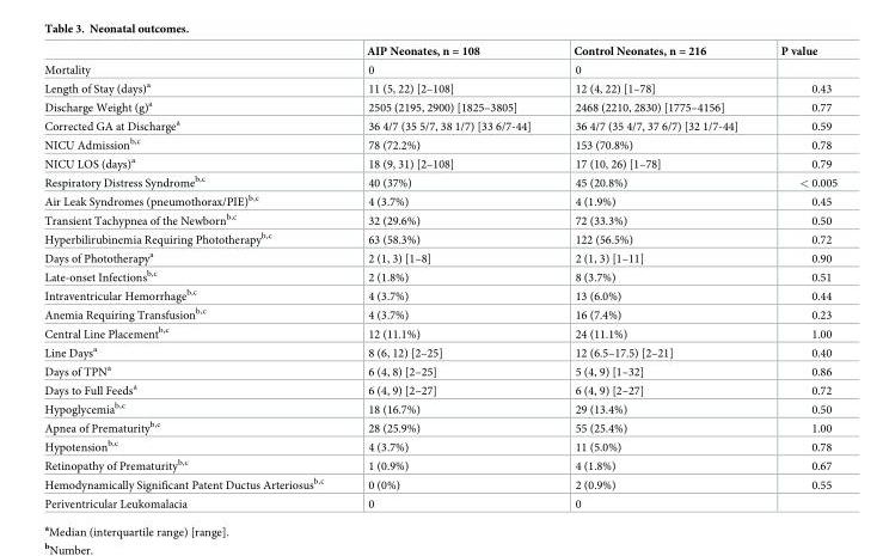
<table><thead><tr><td></td><td>AIP Neonates, n = 108</td><td>Control Neonates, n = 216</td><td>P value</td></tr></thead><tbody><tr><td>Mortality</td><td>0</td><td>0</td><td></td></tr><tr><td>Length of Stay (days)<sup>a</sup></td><td>11 (5, 22) [2–108]</td><td>12 (4, 22) [1–78]</td><td>0.43</td></tr><tr><td>Discharge Weight (g)<sup>a</sup></td><td>2505 (2195, 2900) [1825–3805]</td><td>2468 (2210, 2830) [1775–4156]</td><td>0.77</td></tr><tr><td>Corrected GA at Discharge<sup>a</sup></td><td>36 4/7 (35 5/7, 38 1/7) [33 6/7-44]</td><td>36 4/7 (35 4/7, 37 6/7) [32 1/7-44]</td><td>0.59</td></tr><tr><td>NICU Admission<sup>b,c</sup></td><td>78 (72.2%)</td><td>153 (70.8%)</td><td>0.78</td></tr><tr><td>NICU LOS (days)<sup>a</sup></td><td>18 (9, 31) [2–108]</td><td>17 (10, 26) [1–78]</td><td>0.79</td></tr><tr><td>Respiratory Distress Syndrome<sup>b,c</sup></td><td>40 (37%)</td><td>45 (20.8%)</td><td>&lt; 0.005</td></tr><tr><td>Air Leak Syndromes (pneumothorax/PIE)<sup>b,c</sup></td><td>4 (3.7%)</td><td>4 (1.9%)</td><td>0.45</td></tr><tr><td>Transient Tachypnea of the Newborn<sup>b,c</sup></td><td>32 (29.6%)</td><td>72 (33.3%)</td><td>0.50</td></tr><tr><td>Hyperbilirubinemia Requiring Phototherapy<sup>b,c</sup></td><td>63 (58.3%)</td><td>122 (56.5%)</td><td>0.72</td></tr><tr><td>Days of Phototherapy<sup>a</sup></td><td>2 (1, 3) [1–8]</td><td>2 (1, 3) [1–11]</td><td>0.90</td></tr><tr><td>Late-onset Infections<sup>b,c</sup></td><td>2 (1.8%)</td><td>8 (3.7%)</td><td>0.51</td></tr><tr><td>Intraventricular Hemorrhage<sup>b,c</sup></td><td>4 (3.7%)</td><td>13 (6.0%)</td><td>0.44</td></tr><tr><td>Anemia Requiring Transfusion<sup>b,c</sup></td><td>4 (3.7%)</td><td>16 (7.4%)</td><td>0.23</td></tr><tr><td>Central Line Placement<sup>b,c</sup></td><td>12 (11.1%)</td><td>24 (11.1%)</td><td>1.00</td></tr><tr><td>Line Days<sup>a</sup></td><td>8 (6, 12) [2–25]</td><td>12 (6.5–17.5) [2–21]</td><td>0.40</td></tr><tr><td>Days of TPN<sup>a</sup></td><td>6 (4, 8) [2–25]</td><td>5 (4, 9) [1–32]</td><td>0.86</td></tr><tr><td>Days to Full Feeds<sup>a</sup></td><td>6 (4, 9) [2–27]</td><td>6 (4, 9) [2–27]</td><td>0.72</td></tr><tr><td>Hypoglycemia<sup>b,c</sup></td><td>18 (16.7%)</td><td>29 (13.4%)</td><td>0.50</td></tr><tr><td>Apnea of Prematurity<sup>b,c</sup></td><td>28 (25.9%)</td><td>55 (25.4%)</td><td>1.00</td></tr><tr><td>Hypotension<sup>b,c</sup></td><td>4 (3.7%)</td><td>11 (5.0%)</td><td>0.78</td></tr><tr><td>Retinopathy of Prematurity<sup>b,c</sup></td><td>1 (0.9%)</td><td>4 (1.8%)</td><td>0.67</td></tr><tr><td>Hemodynamically Significant Patent Ductus Arteriosus<sup>b,c</sup></td><td>0 (0%)</td><td>2 (0.9%)</td><td>0.55</td></tr><tr><td>Periventricular Leukomalacia</td><td>0</td><td>0</td><td></td></tr></tbody></table>